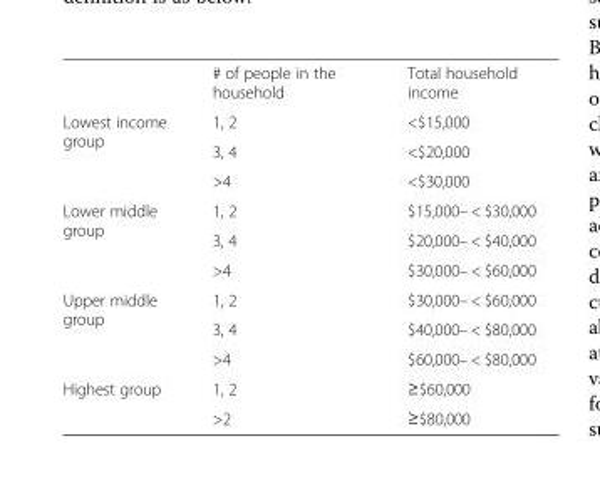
<table><thead><tr><td></td><td># of people in the household</td><td>Total household income</td></tr></thead><tbody><tr><td rowspan="3">Lowest income group</td><td>1, 2</td><td>&lt;$15,000</td></tr><tr><td>3, 4</td><td>&lt;$20,000</td></tr><tr><td>&gt;4</td><td>&lt;$30,000</td></tr><tr><td rowspan="3">Lower middle group</td><td>1, 2</td><td>$15,000– &lt; $30,000</td></tr><tr><td>3, 4</td><td>$20,000– &lt; $40,000</td></tr><tr><td>&gt;4</td><td>$30,000– &lt; $60,000</td></tr><tr><td rowspan="3">Upper middle group</td><td>1, 2</td><td>$30,000– &lt; $60,000</td></tr><tr><td>3, 4</td><td>$40,000– &lt; $80,000</td></tr><tr><td>&gt;4</td><td>$60,000– &lt; $80,000</td></tr><tr><td rowspan="2">Highest group</td><td>1, 2</td><td>≥$60,000</td></tr><tr><td>&gt;2</td><td>≥$80,000</td></tr></tbody></table>